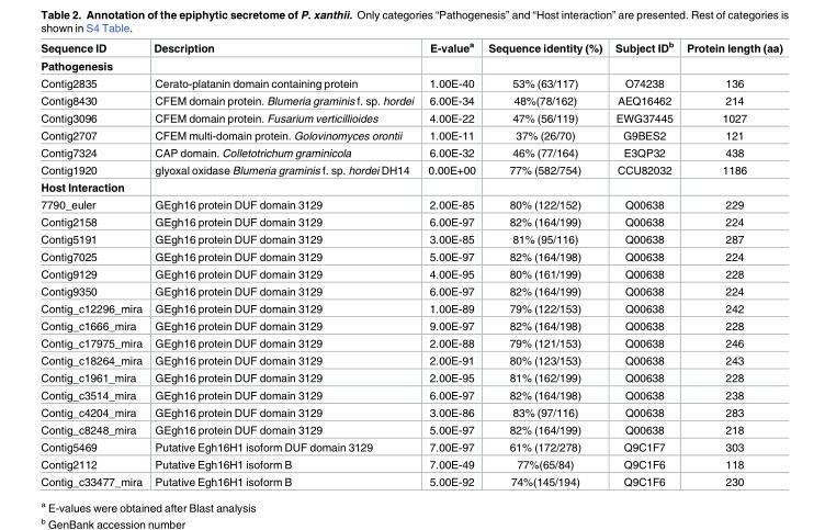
<table><thead><tr><td>Sequence ID</td><td>Description</td><td>E-value<sup>a</sup></td><td>Sequence identity (%)</td><td>Subject ID<sup>b</sup></td><td>Protein length (aa)</td></tr></thead><tbody><tr><td colspan="6">Pathogenesis</td></tr><tr><td>Contig2835</td><td>Cerato-platanin domain containing protein</td><td>1.00E-40</td><td>53% (63/117)</td><td>O74238</td><td>136</td></tr><tr><td>Contig8430</td><td>CFEM domain protein. Blumeria graminis f. sp. hordei</td><td>6.00E-34</td><td>48%(78/162)</td><td>AEQ16462</td><td>214</td></tr><tr><td>Contig3096</td><td>CFEM domain protein. Fusarium verticillioides</td><td>4.00E-22</td><td>47% (56/119)</td><td>EWG37445</td><td>1027</td></tr><tr><td>Contig2707</td><td>CFEM multi-domain protein. Golovinomyces orontii</td><td>1.00E-11</td><td>37% (26/70)</td><td>G9BES2</td><td>121</td></tr><tr><td>Contig7324</td><td>CAP domain. Colletotrichum graminicola</td><td>6.00E-32</td><td>46% (77/164)</td><td>E3QP32</td><td>438</td></tr><tr><td>Contig1920</td><td>glyoxal oxidase Blumeria graminis f. sp. hordei DH14</td><td>0.00E+00</td><td>77% (582/754)</td><td>CCU82032</td><td>1186</td></tr><tr><td colspan="6">Host Interaction</td></tr><tr><td>7790_euler</td><td>GEgh16 protein DUF domain 3129</td><td>2.00E-85</td><td>80% (122/152)</td><td>Q00638</td><td>229</td></tr><tr><td>Contig2158</td><td>GEgh16 protein DUF domain 3129</td><td>6.00E-97</td><td>82% (164/199)</td><td>Q00638</td><td>224</td></tr><tr><td>Contig5191</td><td>GEgh16 protein DUF domain 3129</td><td>3.00E-85</td><td>81% (95/116)</td><td>Q00638</td><td>287</td></tr><tr><td>Contig7025</td><td>GEgh16 protein DUF domain 3129</td><td>5.00E-97</td><td>82% (164/198)</td><td>Q00638</td><td>224</td></tr><tr><td>Contig9129</td><td>GEgh16 protein DUF domain 3129</td><td>4.00E-95</td><td>80% (161/199)</td><td>Q00638</td><td>228</td></tr><tr><td>Contig9350</td><td>GEgh16 protein DUF domain 3129</td><td>6.00E-97</td><td>82% (164/199)</td><td>Q00638</td><td>224</td></tr><tr><td>Contig_c12296_mira</td><td>GEgh16 protein DUF domain 3129</td><td>1.00E-89</td><td>79% (122/153)</td><td>Q00638</td><td>242</td></tr><tr><td>Contig_c1666_mira</td><td>GEgh16 protein DUF domain 3129</td><td>9.00E-97</td><td>82% (164/198)</td><td>Q00638</td><td>228</td></tr><tr><td>Contig_c17975_mira</td><td>GEgh16 protein DUF domain 3129</td><td>2.00E-88</td><td>79% (121/153)</td><td>Q00638</td><td>246</td></tr><tr><td>Contig_c18264_mira</td><td>GEgh16 protein DUF domain 3129</td><td>2.00E-91</td><td>80% (123/153)</td><td>Q00638</td><td>243</td></tr><tr><td>Contig_c1961_mira</td><td>GEgh16 protein DUF domain 3129</td><td>2.00E-95</td><td>81% (162/199)</td><td>Q00638</td><td>228</td></tr><tr><td>Contig_c3514_mira</td><td>GEgh16 protein DUF domain 3129</td><td>6.00E-97</td><td>82% (164/198)</td><td>Q00638</td><td>238</td></tr><tr><td>Contig_c4204_mira</td><td>GEgh16 protein DUF domain 3129</td><td>3.00E-86</td><td>83% (97/116)</td><td>Q00638</td><td>283</td></tr><tr><td>Contig_c8248_mira</td><td>GEgh16 protein DUF domain 3129</td><td>5.00E-97</td><td>82% (164/199)</td><td>Q00638</td><td>218</td></tr><tr><td>Contig5469</td><td>Putative Egh16H1 isoform DUF domain 3129</td><td>7.00E-97</td><td>61% (172/278)</td><td>Q9C1F7</td><td>303</td></tr><tr><td>Contig2112</td><td>Putative Egh16H1 isoform B</td><td>7.00E-49</td><td>77%(65/84)</td><td>Q9C1F6</td><td>118</td></tr><tr><td>Contig_c33477_mira</td><td>Putative Egh16H1 isoform B</td><td>5.00E-92</td><td>74%(145/194)</td><td>Q9C1F6</td><td>230</td></tr></tbody></table>